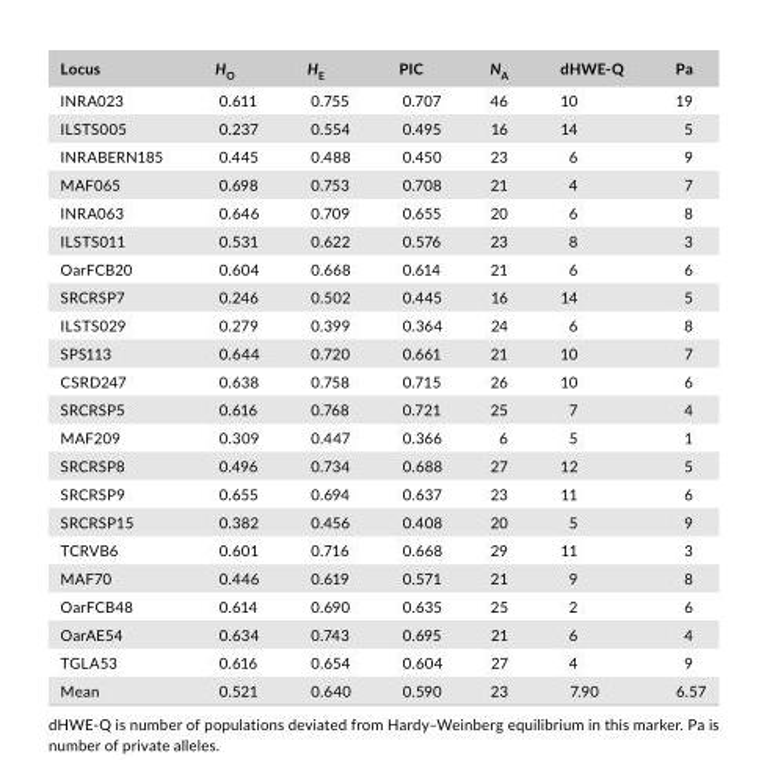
<table><thead><tr><td>Locus</td><td>H<sub>O</sub></td><td>H<sub>E</sub></td><td>PIC</td><td>N<sub>A</sub></td><td>dHWE- Q</td><td>Pa</td></tr></thead><tbody><tr><td>INRA023</td><td>0.611</td><td>0.755</td><td>0.707</td><td>46</td><td>10</td><td>19</td></tr><tr><td>ILSTS005</td><td>0.237</td><td>0.554</td><td>0.495</td><td>16</td><td>14</td><td>5</td></tr><tr><td>INRABERN185</td><td>0.445</td><td>0.488</td><td>0.450</td><td>23</td><td>6</td><td>9</td></tr><tr><td>MAF065</td><td>0.698</td><td>0.753</td><td>0.708</td><td>21</td><td>4</td><td>7</td></tr><tr><td>INRA063</td><td>0.646</td><td>0.709</td><td>0.655</td><td>20</td><td>6</td><td>8</td></tr><tr><td>ILSTS011</td><td>0.531</td><td>0.622</td><td>0.576</td><td>23</td><td>8</td><td>3</td></tr><tr><td>OarFCB20</td><td>0.604</td><td>0.668</td><td>0.614</td><td>21</td><td>6</td><td>6</td></tr><tr><td>SRCRSP7</td><td>0.246</td><td>0.502</td><td>0.445</td><td>16</td><td>14</td><td>5</td></tr><tr><td>ILSTS029</td><td>0.279</td><td>0.399</td><td>0.364</td><td>24</td><td>6</td><td>8</td></tr><tr><td>SPS113</td><td>0.644</td><td>0.720</td><td>0.661</td><td>21</td><td>10</td><td>7</td></tr><tr><td>CSRD247</td><td>0.638</td><td>0.758</td><td>0.715</td><td>26</td><td>10</td><td>6</td></tr><tr><td>SRCRSP5</td><td>0.616</td><td>0.768</td><td>0.721</td><td>25</td><td>7</td><td>4</td></tr><tr><td>MAF209</td><td>0.309</td><td>0.447</td><td>0.366</td><td>6</td><td>5</td><td>1</td></tr><tr><td>SRCRSP8</td><td>0.496</td><td>0.734</td><td>0.688</td><td>27</td><td>12</td><td>5</td></tr><tr><td>SRCRSP9</td><td>0.655</td><td>0.694</td><td>0.637</td><td>23</td><td>11</td><td>6</td></tr><tr><td>SRCRSP15</td><td>0.382</td><td>0.456</td><td>0.408</td><td>20</td><td>5</td><td>9</td></tr><tr><td>TCRVB6</td><td>0.601</td><td>0.716</td><td>0.668</td><td>29</td><td>11</td><td>3</td></tr><tr><td>MAF70</td><td>0.446</td><td>0.619</td><td>0.571</td><td>21</td><td>9</td><td>8</td></tr><tr><td>OarFCB48</td><td>0.614</td><td>0.690</td><td>0.635</td><td>25</td><td>2</td><td>6</td></tr><tr><td>OarAE54</td><td>0.634</td><td>0.743</td><td>0.695</td><td>21</td><td>6</td><td>4</td></tr><tr><td>TGLA53</td><td>0.616</td><td>0.654</td><td>0.604</td><td>27</td><td>4</td><td>9</td></tr><tr><td>Mean</td><td>0.521</td><td>0.640</td><td>0.590</td><td>23</td><td>7.90</td><td>6.57</td></tr></tbody></table>